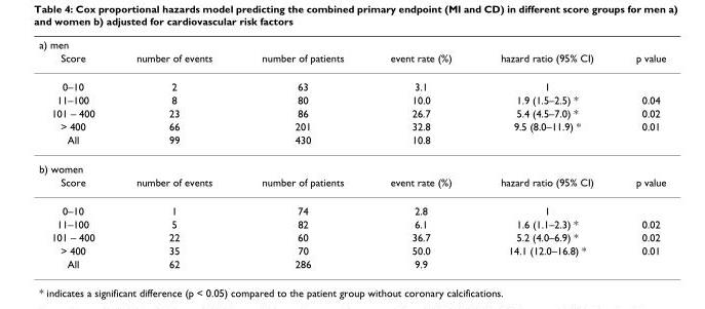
<table><thead><tr><td rowspan="2">a) men Score</td><td rowspan="2">number of events</td><td rowspan="2">number of patients</td><td rowspan="2">event rate (%)</td><td rowspan="2">hazard ratio (95% CI)</td><td rowspan="2">p value</td></tr><tr></tr></thead><tbody><tr><td>0–10</td><td>2</td><td>63</td><td>3.1</td><td>1</td><td></td></tr><tr><td>11–100</td><td>8</td><td>80</td><td>10.0</td><td>1.9 (1.5–2.5) *</td><td>0.04</td></tr><tr><td>101 – 400</td><td>23</td><td>86</td><td>26.7</td><td>5.4 (4.5–7.0) *</td><td>0.02</td></tr><tr><td>&gt; 400</td><td>66</td><td>201</td><td>32.8</td><td>9.5 (8.0–11.9) *</td><td>0.01</td></tr><tr><td>All</td><td>99</td><td>430</td><td>10.8</td><td></td><td></td></tr><tr><td colspan="6">b) women</td></tr><tr><td>Score</td><td>number of events</td><td>number of patients</td><td>event rate (%)</td><td>hazard ratio (95% CI)</td><td>p value</td></tr><tr><td>0–10</td><td>1</td><td>74</td><td>2.8</td><td>1</td><td></td></tr><tr><td>11–100</td><td>5</td><td>82</td><td>6.1</td><td>1.6 (1.1–2.3) *</td><td>0.02</td></tr><tr><td>101 – 400</td><td>22</td><td>60</td><td>36.7</td><td>5.2 (4.0–6.9) *</td><td>0.02</td></tr><tr><td>&gt; 400</td><td>35</td><td>70</td><td>50.0</td><td>14.1 (12.0–16.8) *</td><td>0.01</td></tr><tr><td>All</td><td>62</td><td>286</td><td>9.9</td><td></td><td></td></tr></tbody></table>